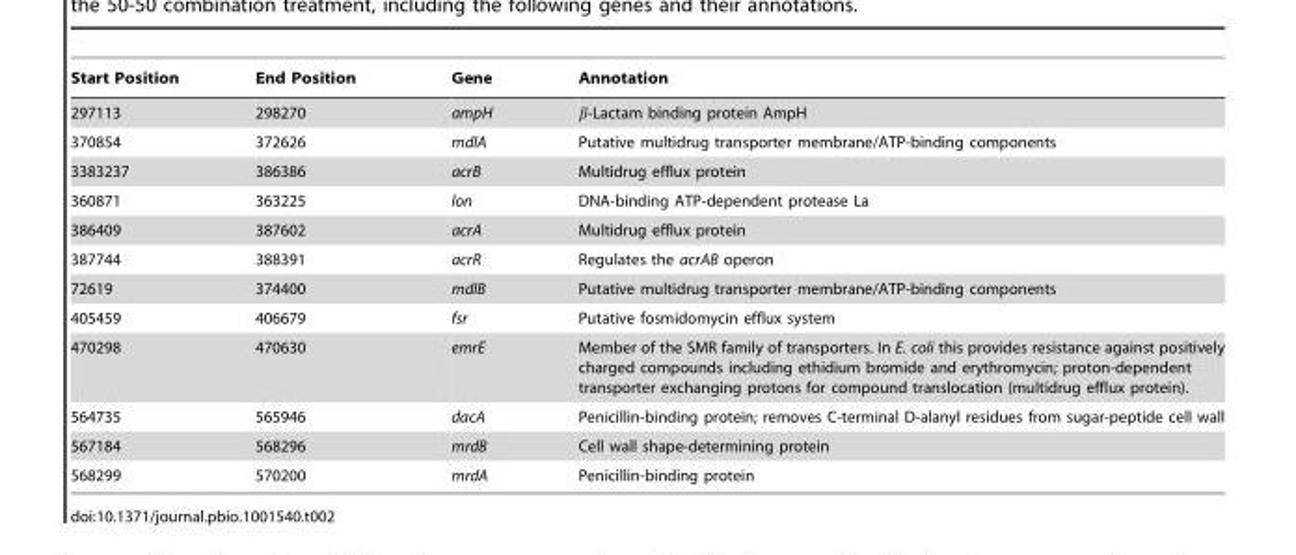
<table><thead><tr><td>Start Position</td><td>End Position</td><td>Gene</td><td>Annotation</td></tr></thead><tbody><tr><td>297113</td><td>298270</td><td>ampH</td><td>β-Lactam binding protein AmpH</td></tr><tr><td>370854</td><td>372626</td><td>mdlA</td><td>Putative multidrug transporter membrane/ATP-binding components</td></tr><tr><td>3383237</td><td>386386</td><td>acrB</td><td>Multidrug efflux protein</td></tr><tr><td>360871</td><td>363225</td><td>lon</td><td>DNA-binding ATP-dependent protease La</td></tr><tr><td>386409</td><td>387602</td><td>acrA</td><td>Multidrug efflux protein</td></tr><tr><td>387744</td><td>388391</td><td>acrR</td><td>Regulates the acrAB operon</td></tr><tr><td>72619</td><td>374400</td><td>mdlB</td><td>Putative multidrug transporter membrane/ATP-binding components</td></tr><tr><td>405459</td><td>406679</td><td>fsr</td><td>Putative fosmidomycin efflux system</td></tr><tr><td>470298</td><td>470630</td><td>emrE</td><td>Member of the SMR family of transporters. In E. coli this provides resistance against positively charged compounds including ethidium bromide and erythromycin; proton-dependent transporter exchanging protons for compound translocation (multidrug efflux protein).</td></tr><tr><td>564735</td><td>565946</td><td>dacA</td><td>Penicillin-binding protein; removes C-terminal D-alanyl residues from sugar-peptide cell wall</td></tr><tr><td>567184</td><td>568296</td><td>mrdB</td><td>Cell wall shape-determining protein</td></tr><tr><td>568299</td><td>570200</td><td>mrdA</td><td>Penicillin-binding protein</td></tr></tbody></table>